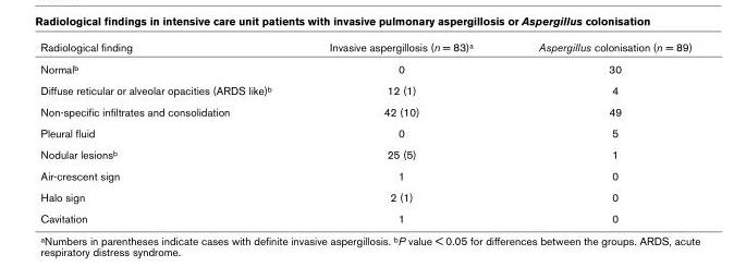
<table><thead><tr><td>Radiological finding</td><td>Invasive aspergillosis (n = 83)a</td><td>Aspergillus colonisation (n = 89)</td></tr></thead><tbody><tr><td>Normalb</td><td>0</td><td>30</td></tr><tr><td>Diffuse reticular or alveolar opacities (ARDS like)b</td><td>12 (1)</td><td>4</td></tr><tr><td>Non-specific infiltrates and consolidation</td><td>42 (10)</td><td>49</td></tr><tr><td>Pleural fluid</td><td>0</td><td>5</td></tr><tr><td>Nodular lesionsb</td><td>25 (5)</td><td>1</td></tr><tr><td>Air-crescent sign</td><td>1</td><td>0</td></tr><tr><td>Halo sign</td><td>2 (1)</td><td>0</td></tr><tr><td>Cavitation</td><td>1</td><td>0</td></tr></tbody></table>